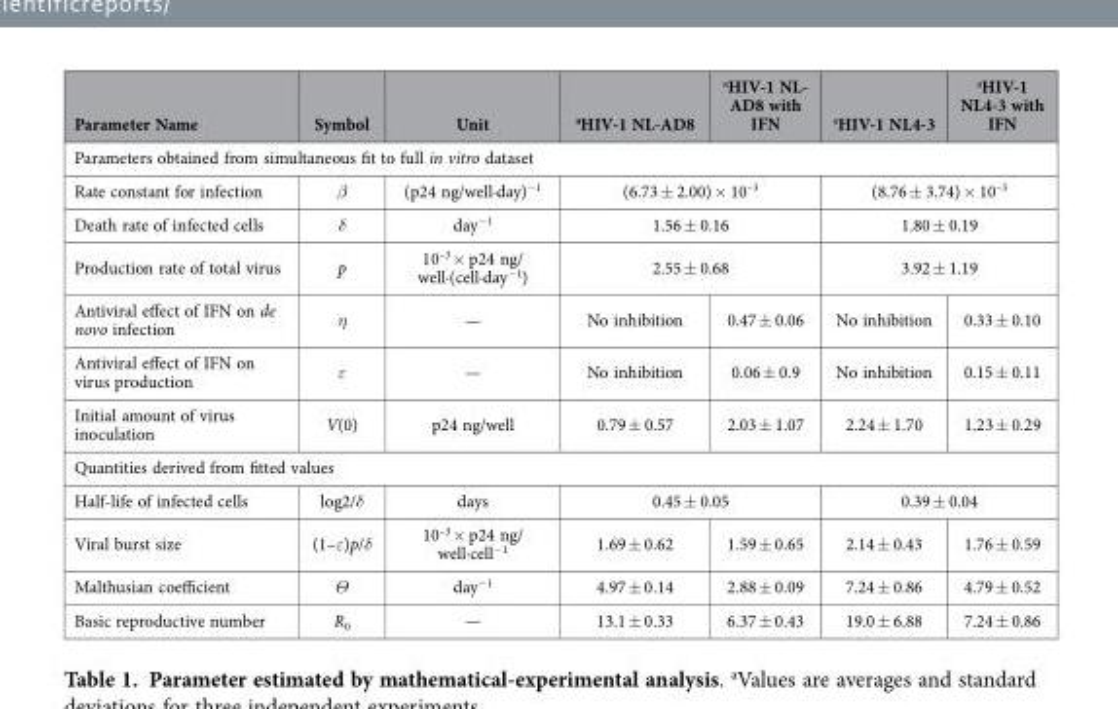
<table><thead><tr><td>Parameter Name</td><td>Symbol</td><td>Unit</td><td>aHIV-1 NL-AD8</td><td>aHIV-1 NL- AD8 with IFN</td><td>aHIV-1 NL4-3</td><td>aHIV-1 NL4-3 with IFN</td></tr></thead><tbody><tr><td colspan="7">Parameters obtained from simultaneous fit to full in vitro dataset</td></tr><tr><td>Rate constant for infection</td><td>β</td><td>(p24 ng/well·day)<sup>−1</sup></td><td colspan="2">(6.73 ± 2.00) × 10<sup>–3</sup></td><td colspan="2">(8.76 ± 3.74) × 10<sup>–3</sup></td></tr><tr><td>Death rate of infected cells</td><td>δ</td><td>day<sup>−1</sup></td><td colspan="2">1.56 ± 0.16</td><td colspan="2">1.80 ± 0.19</td></tr><tr><td>Production rate of total virus</td><td>p</td><td>10<sup>–3</sup> × p24 ng/ well·(cell·day<sup>−1</sup>)</td><td colspan="2">2.55 ± 0.68</td><td colspan="2">3.92 ± 1.19</td></tr><tr><td>Antiviral effect of IFN on de novo infection</td><td>η</td><td>—</td><td>No inhibition</td><td>0.47 ± 0.06</td><td>No inhibition</td><td>0.33 ± 0.10</td></tr><tr><td>Antiviral effect of IFN on virus production</td><td>ε</td><td>—</td><td>No inhibition</td><td>0.06 ± 0.9</td><td>No inhibition</td><td>0.15 ± 0.11</td></tr><tr><td>Initial amount of virus inoculation</td><td>V(0)</td><td>p24 ng/well</td><td>0.79 ± 0.57</td><td>2.03 ± 1.07</td><td>2.24 ± 1.70</td><td>1.23 ± 0.29</td></tr><tr><td colspan="7">Quantities derived from fitted values</td></tr><tr><td>Half-life of infected cells</td><td>log2/δ</td><td>days</td><td colspan="2">0.45 ± 0.05</td><td colspan="2">0.39 ± 0.04</td></tr><tr><td>Viral burst size</td><td>(1–ε)p/δ</td><td>10<sup>–3</sup> × p24 ng/ well·cell<sup>−1</sup></td><td>1.69 ± 0.62</td><td>1.59 ± 0.65</td><td>2.14 ± 0.43</td><td>1.76 ± 0.59</td></tr><tr><td>Malthusian coefficient</td><td>Θ</td><td>day<sup>−1</sup></td><td>4.97 ± 0.14</td><td>2.88 ± 0.09</td><td>7.24 ± 0.86</td><td>4.79 ± 0.52</td></tr><tr><td>Basic reproductive number</td><td>R<sub>0</sub></td><td>—</td><td>13.1 ± 0.33</td><td>6.37 ± 0.43</td><td>19.0 ± 6.88</td><td>7.24 ± 0.86</td></tr></tbody></table>